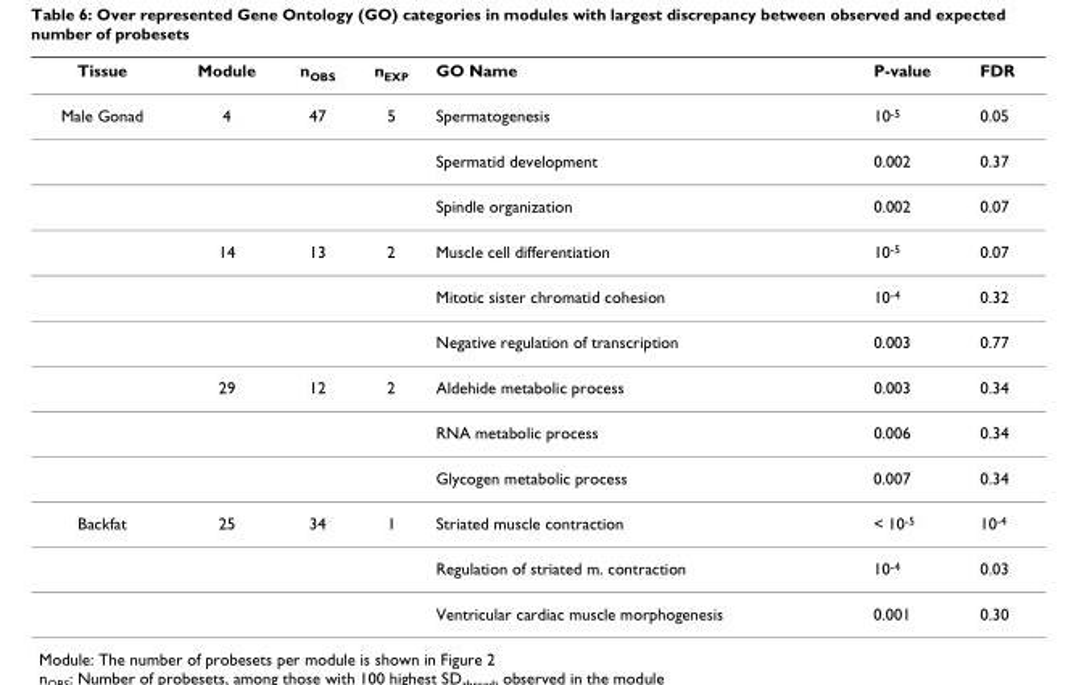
<table><thead><tr><td>Tissue</td><td>Module</td><td>n<sub>OBS</sub></td><td>n<sub>EXP</sub></td><td>GO Name</td><td>P-value</td><td>FDR</td></tr></thead><tbody><tr><td rowspan="9">Male Gonad</td><td>4</td><td>47</td><td>5</td><td>Spermatogenesis</td><td>10<sup>-5</sup></td><td>0.05</td></tr><tr><td></td><td></td><td></td><td>Spermatid development</td><td>0.002</td><td>0.37</td></tr><tr><td></td><td></td><td></td><td>Spindle organization</td><td>0.002</td><td>0.07</td></tr><tr><td>14</td><td>13</td><td>2</td><td>Muscle cell differentiation</td><td>10<sup>-5</sup></td><td>0.07</td></tr><tr><td></td><td></td><td></td><td>Mitotic sister chromatid cohesion</td><td>10<sup>-4</sup></td><td>0.32</td></tr><tr><td></td><td></td><td></td><td>Negative regulation of transcription</td><td>0.003</td><td>0.77</td></tr><tr><td>29</td><td>12</td><td>2</td><td>Aldehide metabolic process</td><td>0.003</td><td>0.34</td></tr><tr><td></td><td></td><td></td><td>RNA metabolic process</td><td>0.006</td><td>0.34</td></tr><tr><td></td><td></td><td></td><td>Glycogen metabolic process</td><td>0.007</td><td>0.34</td></tr><tr><td rowspan="3">Backfat</td><td>25</td><td>34</td><td>1</td><td>Striated muscle contraction</td><td>&lt; 10<sup>-5</sup></td><td>10<sup>-4</sup></td></tr><tr><td></td><td></td><td></td><td>Regulation of striated m. contraction</td><td>10<sup>-4</sup></td><td>0.03</td></tr><tr><td></td><td></td><td></td><td>Ventricular cardiac muscle morphogenesis</td><td>0.001</td><td>0.30</td></tr></tbody></table>